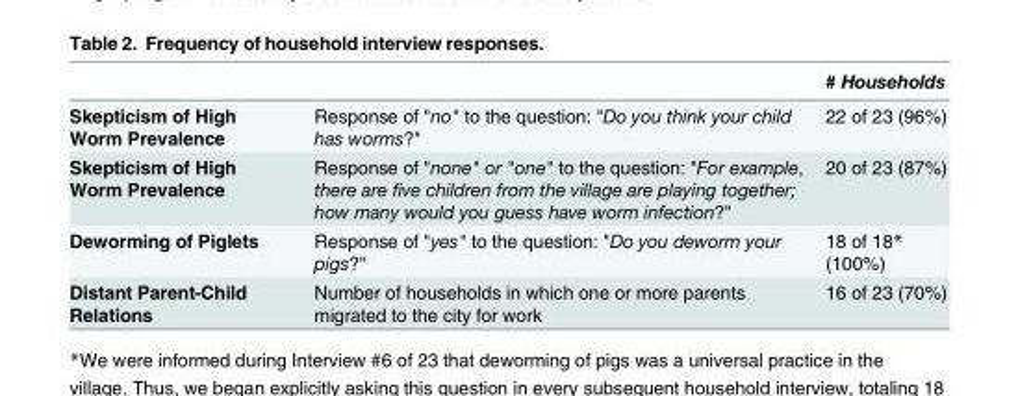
<table><thead><tr><td></td><td></td><td># Households</td></tr></thead><tbody><tr><td>Skepticism of High Worm Prevalence</td><td>Response of &quot;no&quot; to the question: &quot;Do you think your child has worms?&quot;</td><td>22 of 23 (96%)</td></tr><tr><td>Skepticism of High Worm Prevalence</td><td>Response of &quot;none&quot; or &quot;one&quot; to the question: &quot;For example, there are five children from the village are playing together; how many would you guess have worm infection?&quot;</td><td>20 of 23 (87%)</td></tr><tr><td>Deworming of Piglets</td><td>Response of &quot;yes&quot; to the question: &quot;Do you deworm your pigs?&quot;</td><td>18 of 18* (100%)</td></tr><tr><td>Distant Parent-Child Relations</td><td>Number of households in which one or more parents migrated to the city for work</td><td>16 of 23 (70%)</td></tr></tbody></table>